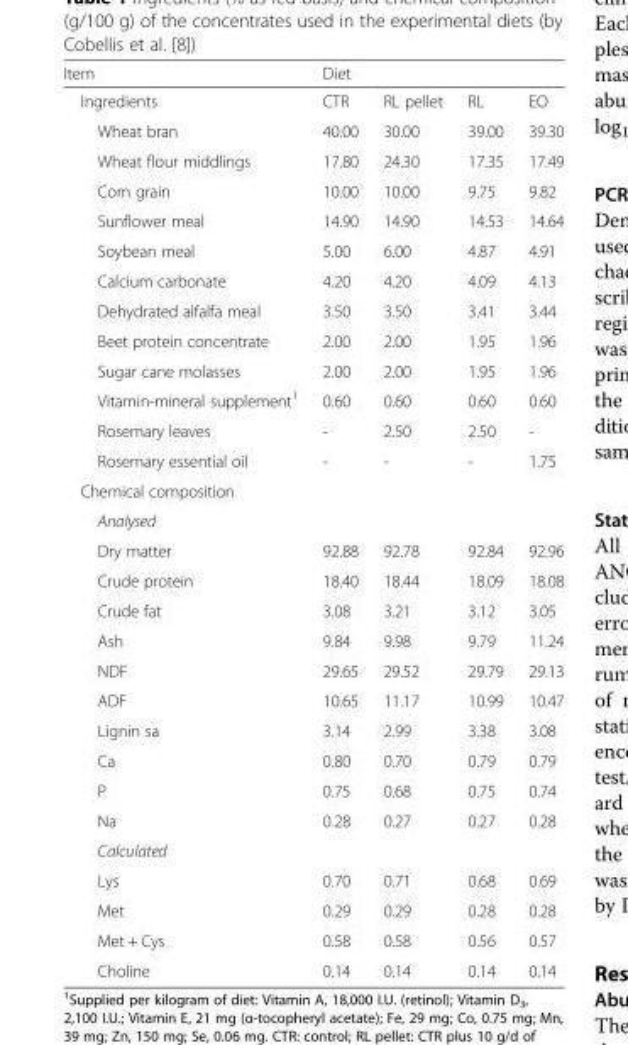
<table><thead><tr><td rowspan="2">Item Ingredients</td><td colspan="4">Diet</td></tr><tr><td>CTR</td><td>RL pellet</td><td>RL</td><td>EO</td></tr></thead><tbody><tr><td>Wheat bran</td><td>40.00</td><td>30.00</td><td>39.00</td><td>39.30</td></tr><tr><td>Wheat flour middlings</td><td>17.80</td><td>24.30</td><td>17.35</td><td>17.49</td></tr><tr><td>Corn grain</td><td>10.00</td><td>10.00</td><td>9.75</td><td>9.82</td></tr><tr><td>Sunflower meal</td><td>14.90</td><td>14.90</td><td>14.53</td><td>14.64</td></tr><tr><td>Soybean meal</td><td>5.00</td><td>6.00</td><td>4.87</td><td>4.91</td></tr><tr><td>Calcium carbonate</td><td>4.20</td><td>4.20</td><td>4.09</td><td>4.13</td></tr><tr><td>Dehydrated alfalfa meal</td><td>3.50</td><td>3.50</td><td>3.41</td><td>3.44</td></tr><tr><td>Beet protein concentrate</td><td>2.00</td><td>2.00</td><td>1.95</td><td>1.96</td></tr><tr><td>Sugar cane molasses</td><td>2.00</td><td>2.00</td><td>1.95</td><td>1.96</td></tr><tr><td>Vitamin-mineral supplement<sup>1</sup></td><td>0.60</td><td>0.60</td><td>0.60</td><td>0.60</td></tr><tr><td>Rosemary leaves</td><td>-</td><td>2.50</td><td>2.50</td><td>-</td></tr><tr><td>Rosemary essential oil</td><td>-</td><td>-</td><td>-</td><td>1.75</td></tr><tr><td colspan="5">Chemical composition</td></tr><tr><td colspan="5">Analysed</td></tr><tr><td>Dry matter</td><td>92.88</td><td>92.78</td><td>92.84</td><td>92.96</td></tr><tr><td>Crude protein</td><td>18.40</td><td>18.44</td><td>18.09</td><td>18.08</td></tr><tr><td>Crude fat</td><td>3.08</td><td>3.21</td><td>3.12</td><td>3.05</td></tr><tr><td>Ash</td><td>9.84</td><td>9.98</td><td>9.79</td><td>11.24</td></tr><tr><td>NDF</td><td>29.65</td><td>29.52</td><td>29.79</td><td>29.13</td></tr><tr><td>ADF</td><td>10.65</td><td>11.17</td><td>10.99</td><td>10.47</td></tr><tr><td>Lignin sa</td><td>3.14</td><td>2.99</td><td>3.38</td><td>3.08</td></tr><tr><td>Ca</td><td>0.80</td><td>0.70</td><td>0.79</td><td>0.79</td></tr><tr><td>P</td><td>0.75</td><td>0.68</td><td>0.75</td><td>0.74</td></tr><tr><td>Na</td><td>0.28</td><td>0.27</td><td>0.27</td><td>0.28</td></tr><tr><td colspan="5">Calculated</td></tr><tr><td>Lys</td><td>0.70</td><td>0.71</td><td>0.68</td><td>0.69</td></tr><tr><td>Met</td><td>0.29</td><td>0.29</td><td>0.28</td><td>0.28</td></tr><tr><td>Met + Cys</td><td>0.58</td><td>0.58</td><td>0.56</td><td>0.57</td></tr><tr><td>Choline</td><td>0.14</td><td>0.14</td><td>0.14</td><td>0.14</td></tr></tbody></table>